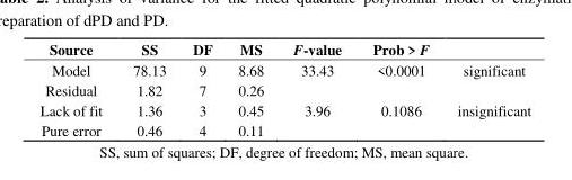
<table><thead><tr><td>Source</td><td>SS</td><td>DF</td><td>MS</td><td>F-value</td><td>Prob &gt; F</td><td></td></tr></thead><tbody><tr><td>Model</td><td>78.13</td><td>9</td><td>8.68</td><td>33.43</td><td>&lt;0.0001</td><td>significant</td></tr><tr><td>Residual</td><td>1.82</td><td>7</td><td>0.26</td><td></td><td></td><td></td></tr><tr><td>Lack of fit</td><td>1.36</td><td>3</td><td>0.45</td><td>3.96</td><td>0.1086</td><td>insignificant</td></tr><tr><td>Pure error</td><td>0.46</td><td>4</td><td>0.11</td><td></td><td></td><td></td></tr></tbody></table>